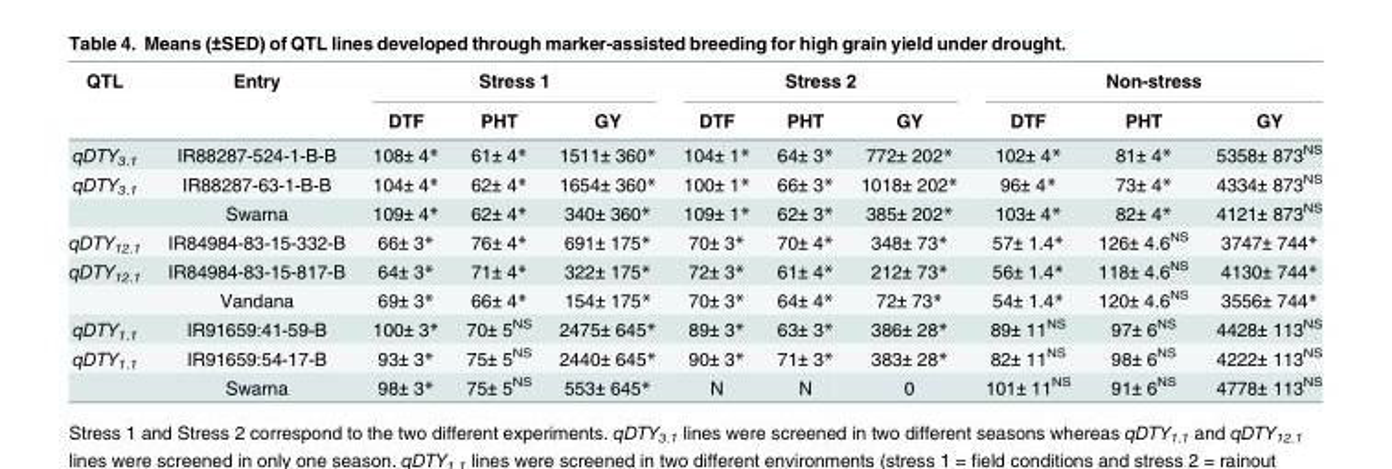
<table><thead><tr><td rowspan="2">QTL</td><td rowspan="2">Entry</td><td colspan="3">Stress 1</td><td colspan="3">Stress 2</td><td colspan="3">Non-stress</td></tr><tr><td>DTF</td><td>PHT</td><td>GY</td><td>DTF</td><td>PHT</td><td>GY</td><td>DTF</td><td>PHT</td><td>GY</td></tr></thead><tbody><tr><td>qDTY<sub>3.1</sub></td><td>IR88287-524-1-B-B</td><td>108± 4*</td><td>61± 4*</td><td>1511± 360*</td><td>104± 1*</td><td>64± 3*</td><td>772± 202*</td><td>102± 4*</td><td>81± 4*</td><td>5358± 873<sup>NS</sup></td></tr><tr><td rowspan="2">qDTY<sub>3.1</sub></td><td>IR88287-63-1-B-B</td><td>104± 4*</td><td>62± 4*</td><td>1654± 360*</td><td>100± 1*</td><td>66± 3*</td><td>1018± 202*</td><td>96± 4*</td><td>73± 4*</td><td>4334± 873<sup>NS</sup></td></tr><tr><td>Swarna</td><td>109± 4*</td><td>62± 4*</td><td>340± 360*</td><td>109± 1*</td><td>62± 3*</td><td>385± 202*</td><td>103± 4*</td><td>82± 4*</td><td>4121± 873<sup>NS</sup></td></tr><tr><td>qDTY<sub>12.1</sub></td><td>IR84984-83-15-332-B</td><td>66± 3*</td><td>76± 4*</td><td>691± 175*</td><td>70± 3*</td><td>70± 4*</td><td>348± 73*</td><td>57± 1.4*</td><td>126± 4.6<sup>NS</sup></td><td>3747± 744*</td></tr><tr><td rowspan="2">qDTY<sub>12.1</sub></td><td>IR84984-83-15-817-B</td><td>64± 3*</td><td>71± 4*</td><td>322± 175*</td><td>72± 3*</td><td>61± 4*</td><td>212± 73*</td><td>56± 1.4*</td><td>118± 4.6<sup>NS</sup></td><td>4130± 744*</td></tr><tr><td>Vandana</td><td>69± 3*</td><td>66± 4*</td><td>154± 175*</td><td>70± 3*</td><td>64± 4*</td><td>72± 73*</td><td>54± 1.4*</td><td>120± 4.6<sup>NS</sup></td><td>3556± 744*</td></tr><tr><td>qDTY<sub>1.1</sub></td><td>IR91659:41-59-B</td><td>100± 3*</td><td>70± 5<sup>NS</sup></td><td>2475± 645*</td><td>89± 3*</td><td>63± 3*</td><td>386± 28*</td><td>89± 11<sup>NS</sup></td><td>97± 6<sup>NS</sup></td><td>4428± 113<sup>NS</sup></td></tr><tr><td rowspan="2">qDTY<sub>1.1</sub></td><td>IR91659:54-17-B</td><td>93± 3*</td><td>75± 5<sup>NS</sup></td><td>2440± 645*</td><td>90± 3*</td><td>71± 3*</td><td>383± 28*</td><td>82± 11<sup>NS</sup></td><td>98± 6<sup>NS</sup></td><td>4222± 113<sup>NS</sup></td></tr><tr><td>Swarna</td><td>98± 3*</td><td>75± 5<sup>NS</sup></td><td>553± 645*</td><td>N</td><td>N</td><td>0</td><td>101± 11<sup>NS</sup></td><td>91± 6<sup>NS</sup></td><td>4778± 113<sup>NS</sup></td></tr></tbody></table>